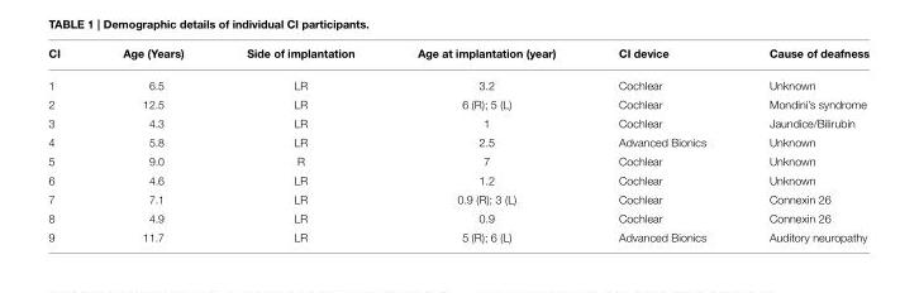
<table><thead><tr><td>CI</td><td>Age (Years)</td><td>Side of implantation</td><td>Age at implantation (year)</td><td>CI device</td><td>Cause of deafness</td></tr></thead><tbody><tr><td>1</td><td>6.5</td><td>LR</td><td>3.2</td><td>Cochlear</td><td>Unknown</td></tr><tr><td>2</td><td>12.5</td><td>LR</td><td>6 (R); 5 (L)</td><td>Cochlear</td><td>Mondini’s syndrome</td></tr><tr><td>3</td><td>4.3</td><td>LR</td><td>1</td><td>Cochlear</td><td>Jaundice/Bilirubin</td></tr><tr><td>4</td><td>5.8</td><td>LR</td><td>2.5</td><td>Advanced Bionics</td><td>Unknown</td></tr><tr><td>5</td><td>9.0</td><td>R</td><td>7</td><td>Cochlear</td><td>Unknown</td></tr><tr><td>6</td><td>4.6</td><td>LR</td><td>1.2</td><td>Cochlear</td><td>Unknown</td></tr><tr><td>7</td><td>7.1</td><td>LR</td><td>0.9 (R); 3 (L)</td><td>Cochlear</td><td>Connexin 26</td></tr><tr><td>8</td><td>4.9</td><td>LR</td><td>0.9</td><td>Cochlear</td><td>Connexin 26</td></tr><tr><td>9</td><td>11.7</td><td>LR</td><td>5 (R); 6 (L)</td><td>Advanced Bionics</td><td>Auditory neuropathy</td></tr></tbody></table>